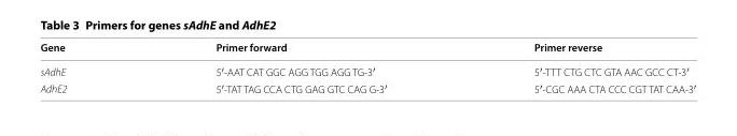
<table><thead><tr><td>Gene</td><td>Primer forward</td><td>Primer reverse</td></tr></thead><tbody><tr><td>sAdhE</td><td>5′-AAT CAT GGC AGG TGG AGG TG-3′</td><td>5′-TTT CTG CTC GTA AAC GCC CT-3′</td></tr><tr><td>AdhE2</td><td>5′-TAT TAG CCA CTG GAG GTC CAG G-3′</td><td>5′-CGC AAA CTA CCC CGT TAT CAA-3′</td></tr></tbody></table>